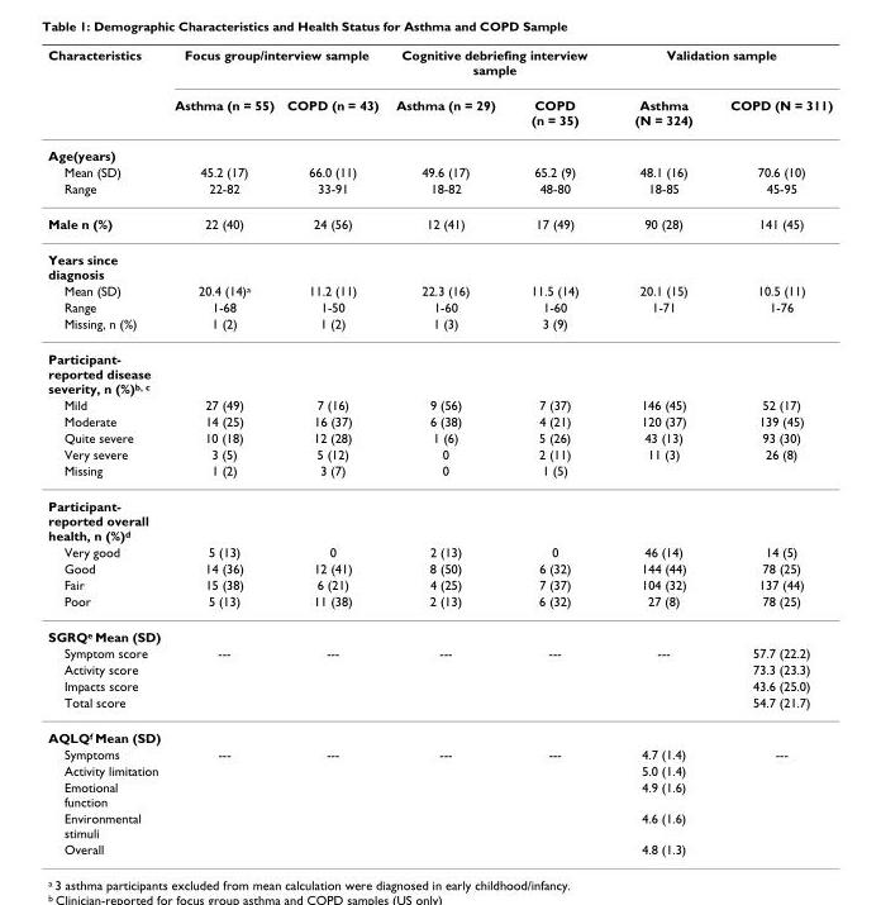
<table><thead><tr><td rowspan="2">Characteristics</td><td colspan="2">Focus group/interview sample</td><td colspan="2">Cognitive debriefing interview sample</td><td colspan="2">Validation sample</td></tr><tr><td>Asthma (n = 55)</td><td>COPD (n = 43)</td><td>Asthma (n = 29)</td><td>COPD (n = 35)</td><td>Asthma (N = 324)</td><td>COPD (N = 311)</td></tr></thead><tbody><tr><td colspan="7">Age(years)</td></tr><tr><td>Mean (SD)</td><td>45.2 (17)</td><td>66.0 (11)</td><td>49.6 (17)</td><td>65.2 (9)</td><td>48.1 (16)</td><td>70.6 (10)</td></tr><tr><td>Range</td><td>22-82</td><td>33-91</td><td>18-82</td><td>48-80</td><td>18-85</td><td>45-95</td></tr><tr><td>Male n (%)</td><td>22 (40)</td><td>24 (56)</td><td>12 (41)</td><td>17 (49)</td><td>90 (28)</td><td>141 (45)</td></tr><tr><td colspan="7">Years since diagnosis</td></tr><tr><td>Mean (SD)</td><td>20.4 (14)<sup>a</sup></td><td>11.2 (11)</td><td>22.3 (16)</td><td>11.5 (14)</td><td>20.1 (15)</td><td>10.5 (11)</td></tr><tr><td>Range</td><td>1-68</td><td>1-50</td><td>1-60</td><td>1-60</td><td>1-71</td><td>1-76</td></tr><tr><td>Missing, n (%)</td><td>1 (2)</td><td>1 (2)</td><td>1 (3)</td><td>3 (9)</td><td></td><td></td></tr><tr><td colspan="7">Participant- reported disease severity, n (%)<sup>b, c</sup></td></tr><tr><td>Mild</td><td>27 (49)</td><td>7 (16)</td><td>9 (56)</td><td>7 (37)</td><td>146 (45)</td><td>52 (17)</td></tr><tr><td>Moderate</td><td>14 (25)</td><td>16 (37)</td><td>6 (38)</td><td>4 (21)</td><td>120 (37)</td><td>139 (45)</td></tr><tr><td>Quite severe</td><td>10 (18)</td><td>12 (28)</td><td>1 (6)</td><td>5 (26)</td><td>43 (13)</td><td>93 (30)</td></tr><tr><td>Very severe</td><td>3 (5)</td><td>5 (12)</td><td>0</td><td>2 (11)</td><td>11 (3)</td><td>26 (8)</td></tr><tr><td>Missing</td><td>1 (2)</td><td>3 (7)</td><td>0</td><td>1 (5)</td><td></td><td></td></tr><tr><td colspan="7">Participant- reported overall health, n (%)<sup>d</sup></td></tr><tr><td>Very good</td><td>5 (13)</td><td>0</td><td>2 (13)</td><td>0</td><td>46 (14)</td><td>14 (5)</td></tr><tr><td>Good</td><td>14 (36)</td><td>12 (41)</td><td>8 (50)</td><td>6 (32)</td><td>144 (44)</td><td>78 (25)</td></tr><tr><td>Fair</td><td>15 (38)</td><td>6 (21)</td><td>4 (25)</td><td>7 (37)</td><td>104 (32)</td><td>137 (44)</td></tr><tr><td>Poor</td><td>5 (13)</td><td>11 (38)</td><td>2 (13)</td><td>6 (32)</td><td>27 (8)</td><td>78 (25)</td></tr><tr><td colspan="7">SGRQ<sup>e</sup> Mean (SD)</td></tr><tr><td>Symptom score</td><td>---</td><td>---</td><td>---</td><td>---</td><td>---</td><td>57.7 (22.2)</td></tr><tr><td>Activity score</td><td></td><td></td><td></td><td></td><td></td><td>73.3 (23.3)</td></tr><tr><td>Impacts score</td><td></td><td></td><td></td><td></td><td></td><td>43.6 (25.0)</td></tr><tr><td>Total score</td><td></td><td></td><td></td><td></td><td></td><td>54.7 (21.7)</td></tr><tr><td colspan="7">AQLQ<sup>f</sup> Mean (SD)</td></tr><tr><td>Symptoms</td><td>---</td><td>---</td><td>---</td><td>---</td><td>4.7 (1.4)</td><td>---</td></tr><tr><td>Activity limitation</td><td></td><td></td><td></td><td></td><td>5.0 (1.4)</td><td></td></tr><tr><td>Emotional function</td><td></td><td></td><td></td><td></td><td>4.9 (1.6)</td><td></td></tr><tr><td>Environmental stimuli</td><td></td><td></td><td></td><td></td><td>4.6 (1.6)</td><td></td></tr><tr><td>Overall</td><td></td><td></td><td></td><td></td><td>4.8 (1.3)</td><td></td></tr></tbody></table>